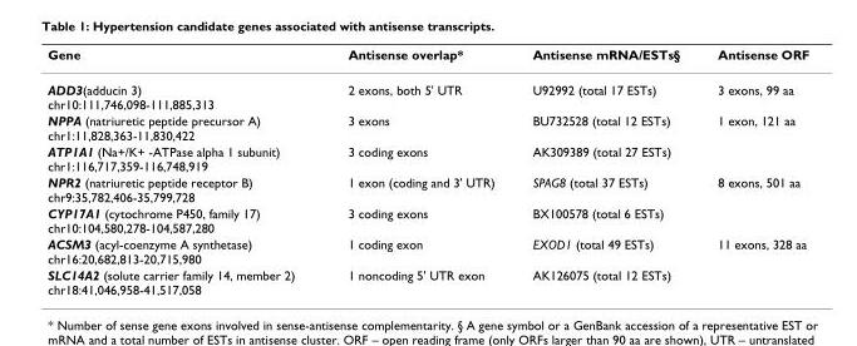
<table><thead><tr><td>Gene</td><td>Antisense overlap*</td><td>Antisense mRNA/ESTs§</td><td>Antisense ORF</td></tr></thead><tbody><tr><td>ADD3(adducin 3) chr10:111,746,098-111,885,313</td><td>2 exons, both 5&#x27; UTR</td><td>U92992 (total 17 ESTs)</td><td>3 exons, 99 aa</td></tr><tr><td>NPPA (natriuretic peptide precursor A) chr1:11,828,363-11,830,422</td><td>3 exons</td><td>BU732528 (total 12 ESTs)</td><td>1 exon, 121 aa</td></tr><tr><td>ATP1A1 (Na+/K+ -ATPase alpha 1 subunit) chr1:116,717,359-116,748,919</td><td>3 coding exons</td><td>AK309389 (total 27 ESTs)</td><td></td></tr><tr><td>NPR2 (natriuretic peptide receptor B) chr9:35,782,406-35,799,728</td><td>1 exon (coding and 3&#x27; UTR)</td><td>SPAG8 (total 37 ESTs)</td><td>8 exons, 501 aa</td></tr><tr><td>CYP17A1 (cytochrome P450, family 17) chr10:104,580,278-104,587,280</td><td>3 coding exons</td><td>BX100578 (total 6 ESTs)</td><td></td></tr><tr><td>ACSM3 (acyl-coenzyme A synthetase) chr16:20,682,813-20,715,980</td><td>1 coding exon</td><td>EXOD1 (total 49 ESTs)</td><td>11 exons, 328 aa</td></tr><tr><td>SLC14A2 (solute carrier family 14, member 2) chr18:41,046,958-41,517,058</td><td>1 noncoding 5&#x27; UTR exon</td><td>AK126075 (total 12 ESTs)</td><td></td></tr></tbody></table>